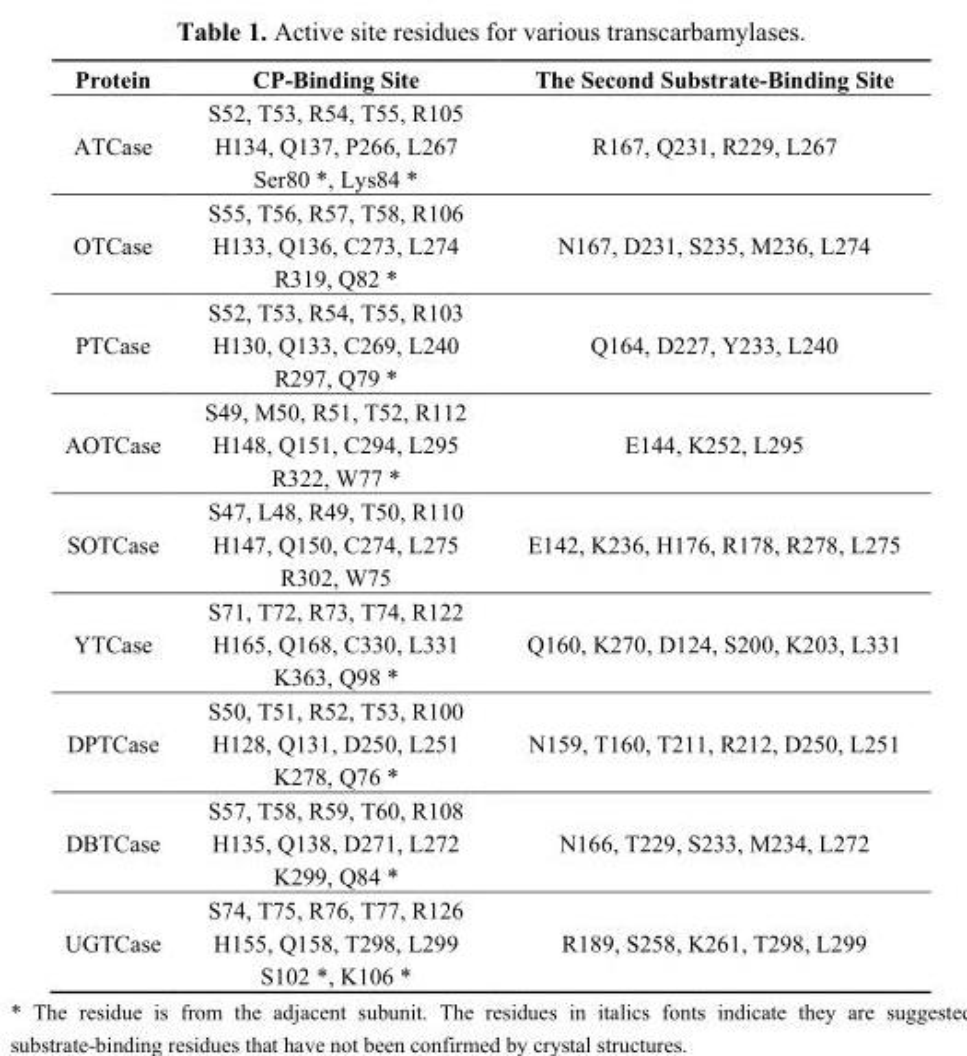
<table><thead><tr><td>Protein</td><td>CP-Binding Site</td><td>The Second Substrate-Binding Site</td></tr></thead><tbody><tr><td>ATCase</td><td>S52, T53, R54, T55, R105 H134, Q137, P266, L267 Ser80 *, Lys84 *</td><td>R167, Q231, R229, L267</td></tr><tr><td>OTCase</td><td>S55, T56, R57, T58, R106 H133, Q136, C273, L274 R319, Q82 *</td><td>N167, D231, S235, M236, L274</td></tr><tr><td>PTCase</td><td>S52, T53, R54, T55, R103 H130, Q133, C269, L240 R297, Q79 *</td><td>Q164, D227, Y233, L240</td></tr><tr><td>AOTCase</td><td>S49, M50, R51, T52, R112 H148, Q151, C294, L295 R322, W77 *</td><td>E144, K252, L295</td></tr><tr><td>SOTCase</td><td>S47, L48, R49, T50, R110 H147, Q150, C274, L275 R302, W75</td><td>E142, K236, H176, R178, R278, L275</td></tr><tr><td>YTCase</td><td>S71, T72, R73, T74, R122 H165, Q168, C330, L331 K363, Q98 *</td><td>Q160, K270, D124, S200, K203, L331</td></tr><tr><td>DPTCase</td><td>S50, T51, R52, T53, R100 H128, Q131, D250, L251 K278, Q76 *</td><td>N159, T160, T211, R212, D250, L251</td></tr><tr><td>DBTCase</td><td>S57, T58, R59, T60, R108 H135, Q138, D271, L272 K299, Q84 *</td><td>N166, T229, S233, M234, L272</td></tr><tr><td>UGTCase</td><td>S74, T75, R76, T77, R126 H155, Q158, T298, L299 S102 *, K106 *</td><td>R189, S258, K261, T298, L299</td></tr></tbody></table>